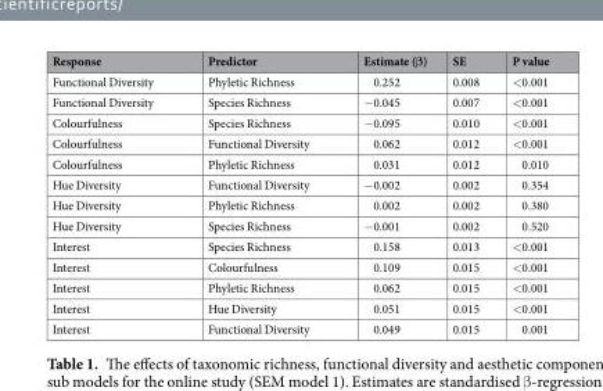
<table><thead><tr><td>Response</td><td>Predictor</td><td>Estimate (β)</td><td>SE</td><td>P value</td></tr></thead><tbody><tr><td>Functional Diversity</td><td>Phyletic Richness</td><td>0.252</td><td>0.008</td><td>&lt;0.001</td></tr><tr><td>Functional Diversity</td><td>Species Richness</td><td>−0.045</td><td>0.007</td><td>&lt;0.001</td></tr><tr><td>Colourfulness</td><td>Species Richness</td><td>−0.095</td><td>0.010</td><td>&lt;0.001</td></tr><tr><td>Colourfulness</td><td>Functional Diversity</td><td>0.062</td><td>0.012</td><td>&lt;0.001</td></tr><tr><td>Colourfulness</td><td>Phyletic Richness</td><td>0.031</td><td>0.012</td><td>0.010</td></tr><tr><td>Hue Diversity</td><td>Functional Diversity</td><td>−0.002</td><td>0.002</td><td>0.354</td></tr><tr><td>Hue Diversity</td><td>Phyletic Richness</td><td>0.002</td><td>0.002</td><td>0.380</td></tr><tr><td>Hue Diversity</td><td>Species Richness</td><td>−0.001</td><td>0.002</td><td>0.520</td></tr><tr><td>Interest</td><td>Species Richness</td><td>0.158</td><td>0.013</td><td>&lt;0.001</td></tr><tr><td>Interest</td><td>Colourfulness</td><td>0.109</td><td>0.015</td><td>&lt;0.001</td></tr><tr><td>Interest</td><td>Phyletic Richness</td><td>0.062</td><td>0.015</td><td>&lt;0.001</td></tr><tr><td>Interest</td><td>Hue Diversity</td><td>0.051</td><td>0.015</td><td>&lt;0.001</td></tr><tr><td>Interest</td><td>Functional Diversity</td><td>0.049</td><td>0.015</td><td>0.001</td></tr></tbody></table>